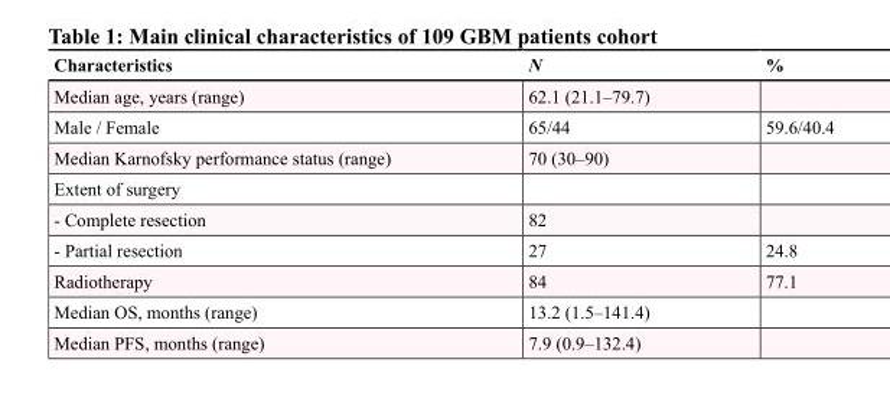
<table><thead><tr><td>Characteristics</td><td>N</td><td>%</td></tr></thead><tbody><tr><td>Median age, years (range)</td><td>62.1 (21.1–79.7)</td><td></td></tr><tr><td>Male / Female</td><td>65/44</td><td>59.6/40.4</td></tr><tr><td>Median Karnofsky performance status (range)</td><td>70 (30–90)</td><td></td></tr><tr><td colspan="3">Extent of surgery</td></tr><tr><td>- Complete resection</td><td>82</td><td></td></tr><tr><td>- Partial resection</td><td>27</td><td>24.8</td></tr><tr><td>Radiotherapy</td><td>84</td><td>77.1</td></tr><tr><td>Median OS, months (range)</td><td>13.2 (1.5–141.4)</td><td></td></tr><tr><td>Median PFS, months (range)</td><td>7.9 (0.9–132.4)</td><td></td></tr></tbody></table>